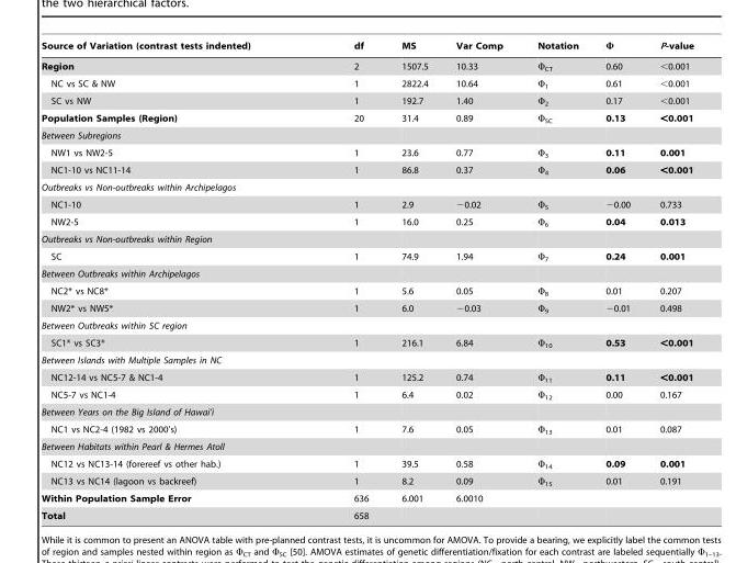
<table><thead><tr><td>Source of Variation (contrast tests indented)</td><td>df</td><td>MS</td><td>Var Comp</td><td>Notation</td><td>Φ</td><td>P-value</td></tr></thead><tbody><tr><td>Region</td><td>2</td><td>1507.5</td><td>10.33</td><td>Φ<sub>CT</sub></td><td>0.60</td><td>&lt;0.001</td></tr><tr><td>NC vs SC &amp; NW</td><td>1</td><td>2822.4</td><td>10.64</td><td>Φ<sub>1</sub></td><td>0.61</td><td>&lt;0.001</td></tr><tr><td>SC vs NW</td><td>1</td><td>192.7</td><td>1.40</td><td>Φ<sub>2</sub></td><td>0.17</td><td>&lt;0.001</td></tr><tr><td>Population Samples (Region)</td><td>20</td><td>31.4</td><td>0.89</td><td>Φ<sub>SC</sub></td><td>0.13</td><td>&lt;0.001</td></tr><tr><td colspan="7">Between Subregions</td></tr><tr><td>NW1 vs NW2-5</td><td>1</td><td>23.6</td><td>0.77</td><td>Φ<sub>3</sub></td><td>0.11</td><td>0.001</td></tr><tr><td>NC1-10 vs NC11-14</td><td>1</td><td>86.8</td><td>0.37</td><td>Φ<sub>4</sub></td><td>0.06</td><td>&lt;0.001</td></tr><tr><td colspan="7">Outbreaks vs Non-outbreaks within Archipelagos</td></tr><tr><td>NC1-10</td><td>1</td><td>2.9</td><td>−0.02</td><td>Φ<sub>5</sub></td><td>−0.00</td><td>0.733</td></tr><tr><td>NW2-5</td><td>1</td><td>16.0</td><td>0.25</td><td>Φ<sub>6</sub></td><td>0.04</td><td>0.013</td></tr><tr><td colspan="7">Outbreaks vs Non-outbreaks within Region</td></tr><tr><td>SC</td><td>1</td><td>74.9</td><td>1.94</td><td>Φ<sub>7</sub></td><td>0.24</td><td>0.001</td></tr><tr><td colspan="7">Between Outbreaks within Archipelagos</td></tr><tr><td>NC2* vs NC8*</td><td>1</td><td>5.6</td><td>0.05</td><td>Φ<sub>8</sub></td><td>0.01</td><td>0.207</td></tr><tr><td>NW2* vs NW5*</td><td>1</td><td>6.0</td><td>−0.03</td><td>Φ<sub>9</sub></td><td>−0.01</td><td>0.498</td></tr><tr><td colspan="7">Between Outbreaks within SC region</td></tr><tr><td>SC1* vs SC3*</td><td>1</td><td>216.1</td><td>6.84</td><td>Φ<sub>10</sub></td><td>0.53</td><td>&lt;0.001</td></tr><tr><td colspan="7">Between Islands with Multiple Samples in NC</td></tr><tr><td>NC12-14 vs NC5-7 &amp; NC1-4</td><td>1</td><td>125.2</td><td>0.74</td><td>Φ<sub>11</sub></td><td>0.11</td><td>&lt;0.001</td></tr><tr><td>NC5-7 vs NC1-4</td><td>1</td><td>6.4</td><td>0.02</td><td>Φ<sub>12</sub></td><td>0.00</td><td>0.167</td></tr><tr><td colspan="7">Between Years on the Big Island of Hawai’i</td></tr><tr><td>NC1 vs NC2-4 (1982 vs 2000’s)</td><td>1</td><td>7.6</td><td>0.05</td><td>Φ<sub>13</sub></td><td>0.01</td><td>0.087</td></tr><tr><td colspan="7">Between Habitats within Pearl &amp; Hermes Atoll</td></tr><tr><td>NC12 vs NC13-14 (forereef vs other hab.)</td><td>1</td><td>39.5</td><td>0.58</td><td>Φ<sub>14</sub></td><td>0.09</td><td>0.001</td></tr><tr><td>NC13 vs NC14 (lagoon vs backreef)</td><td>1</td><td>8.2</td><td>0.09</td><td>Φ<sub>15</sub></td><td>0.01</td><td>0.191</td></tr><tr><td>Within Population Sample Error</td><td>636</td><td>6.001</td><td>6.0010</td><td></td><td></td><td></td></tr><tr><td>Total</td><td>658</td><td></td><td></td><td></td><td></td><td></td></tr></tbody></table>